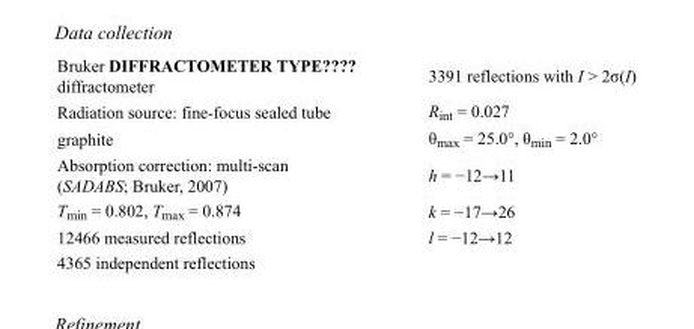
<table><tbody><tr><td>Bruker DIFFRACTOMETER TYPE???? diffractometer</td><td>3391 reflections with I &gt; 2σ(I)</td></tr><tr><td>Radiation source: fine-focus sealed tube</td><td>R<sub>int</sub> = 0.027</td></tr><tr><td>graphite</td><td>θ<sub>max</sub> = 25.0°, θ<sub>min</sub> = 2.0°</td></tr><tr><td>Absorption correction: multi-scan (SADABS; Bruker, 2007)</td><td>h = −12→11</td></tr><tr><td>T<sub>min</sub> = 0.802, T<sub>max</sub> = 0.874</td><td>k = −17→26</td></tr><tr><td>12466 measured reflections</td><td>l = −12→12</td></tr><tr><td>4365 independent reflections</td><td></td></tr></tbody></table>